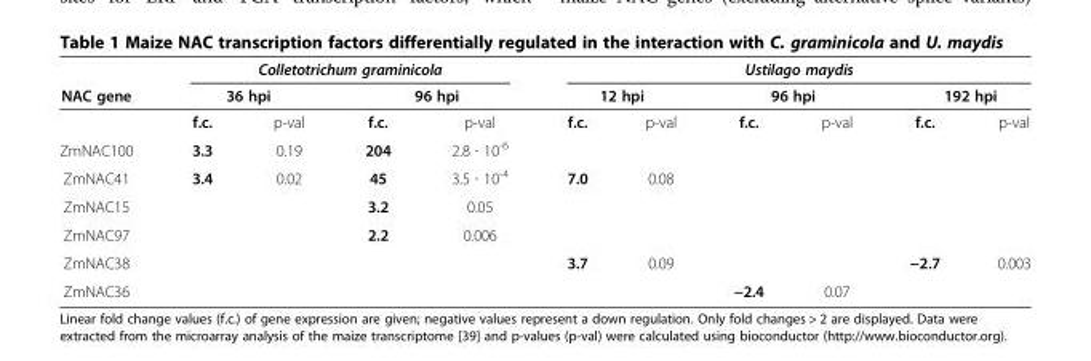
<table><thead><tr><td rowspan="3">NAC gene</td><td colspan="4">Colletotrichum graminicola</td><td colspan="6">Ustilago maydis</td></tr><tr><td colspan="2">36 hpi</td><td colspan="2">96 hpi</td><td colspan="2">12 hpi</td><td colspan="2">96 hpi</td><td colspan="2">192 hpi</td></tr><tr><td>f.c.</td><td>p-val</td><td>f.c.</td><td>p-val</td><td>f.c.</td><td>p-val</td><td>f.c.</td><td>p-val</td><td>f.c.</td><td>p-val</td></tr></thead><tbody><tr><td>ZmNAC100</td><td>3.3</td><td>0.19</td><td>204</td><td>2.8 ∙ 10<sup>-6</sup></td><td></td><td></td><td></td><td></td><td></td><td></td></tr><tr><td>ZmNAC41</td><td>3.4</td><td>0.02</td><td>45</td><td>3.5 ∙ 10<sup>-4</sup></td><td>7.0</td><td>0.08</td><td></td><td></td><td></td><td></td></tr><tr><td>ZmNAC15</td><td></td><td></td><td>3.2</td><td>0.05</td><td></td><td></td><td></td><td></td><td></td><td></td></tr><tr><td>ZmNAC97</td><td></td><td></td><td>2.2</td><td>0.006</td><td></td><td></td><td></td><td></td><td></td><td></td></tr><tr><td>ZmNAC38</td><td></td><td></td><td></td><td></td><td>3.7</td><td>0.09</td><td></td><td></td><td>−2.7</td><td>0.003</td></tr><tr><td>ZmNAC36</td><td></td><td></td><td></td><td></td><td></td><td></td><td>−2.4</td><td>0.07</td><td></td><td></td></tr></tbody></table>